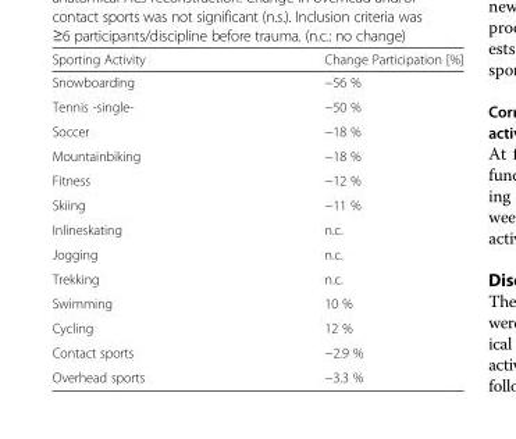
<table><thead><tr><td>Sporting Activity</td><td>Change Participation [%]</td></tr></thead><tbody><tr><td>Snowboarding</td><td>−56 %</td></tr><tr><td>Tennis -single-</td><td>−50 %</td></tr><tr><td>Soccer</td><td>−18 %</td></tr><tr><td>Mountainbiking</td><td>−18 %</td></tr><tr><td>Fitness</td><td>−12 %</td></tr><tr><td>Skiing</td><td>−11 %</td></tr><tr><td>Inlineskating</td><td>n.c.</td></tr><tr><td>Jogging</td><td>n.c.</td></tr><tr><td>Trekking</td><td>n.c.</td></tr><tr><td>Swimming</td><td>10 %</td></tr><tr><td>Cycling</td><td>12 %</td></tr><tr><td>Contact sports</td><td>−2.9 %</td></tr><tr><td>Overhead sports</td><td>−3.3 %</td></tr></tbody></table>